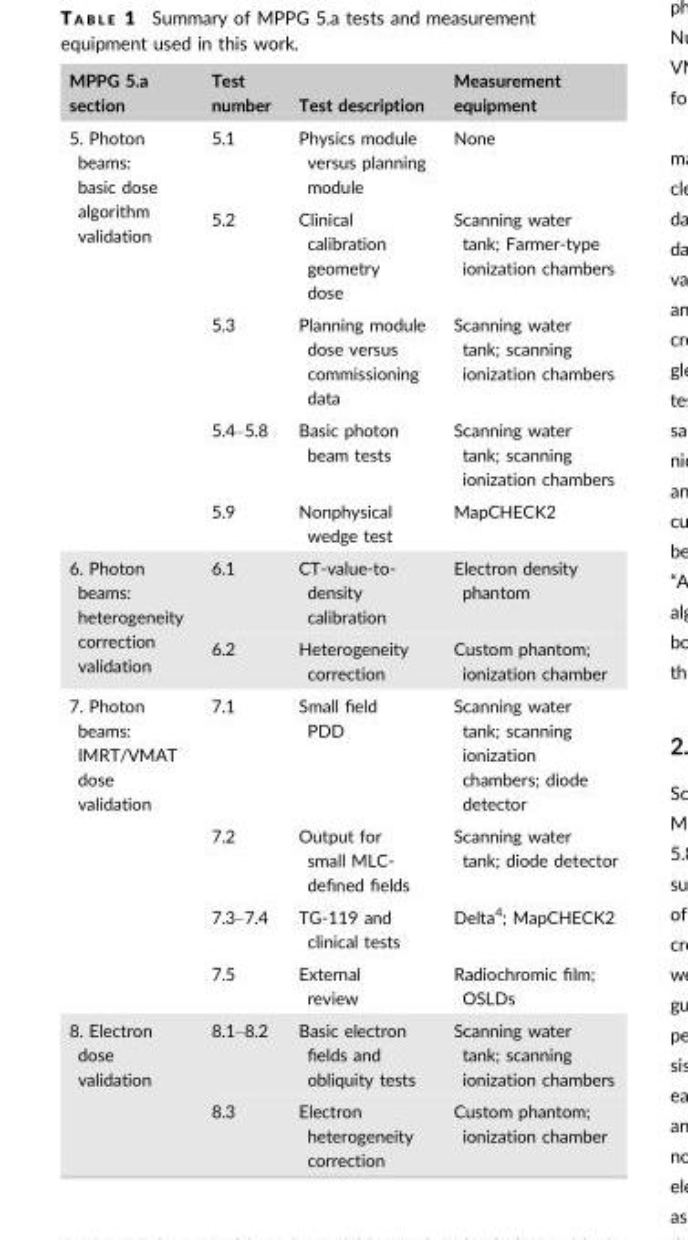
<table><thead><tr><td>MPPG 5.a section</td><td>Test number</td><td>Test description</td><td>Measurement equipment</td></tr></thead><tbody><tr><td rowspan="5">5. Photon beams: basic dose algorithm validation</td><td>5.1</td><td>Physics module versus planning module</td><td>None</td></tr><tr><td>5.2</td><td>Clinical calibration geometry dose</td><td>Scanning water tank; Farmer-type ionization chambers</td></tr><tr><td>5.3</td><td>Planning module dose versus commissioning data</td><td>Scanning water tank; scanning ionization chambers</td></tr><tr><td>5.4–5.8</td><td>Basic photon beam tests</td><td>Scanning water tank; scanning ionization chambers</td></tr><tr><td>5.9</td><td>Nonphysical wedge test</td><td>MapCHECK2</td></tr><tr><td rowspan="2">6. Photon beams: heterogeneity correction validation</td><td>6.1</td><td>CT-value-to- density calibration</td><td>Electron density phantom</td></tr><tr><td>6.2</td><td>Heterogeneity correction</td><td>Custom phantom; ionization chamber</td></tr><tr><td rowspan="4">7. Photon beams: IMRT/VMAT dose validation</td><td>7.1</td><td>Small field PDD</td><td>Scanning water tank; scanning ionization chambers; diode detector</td></tr><tr><td>7.2</td><td>Output for small MLC- defined fields</td><td>Scanning water tank; diode detector</td></tr><tr><td>7.3–7.4</td><td>TG-119 and clinical tests</td><td>Delta<sup>4</sup>; MapCHECK2</td></tr><tr><td>7.5</td><td>External review</td><td>Radiochromic film; OSLDs</td></tr><tr><td rowspan="2">8. Electron dose validation</td><td>8.1–8.2</td><td>Basic electron fields and obliquity tests</td><td>Scanning water tank; scanning ionization chambers</td></tr><tr><td>8.3</td><td>Electron heterogeneity correction</td><td>Custom phantom; ionization chamber</td></tr></tbody></table>